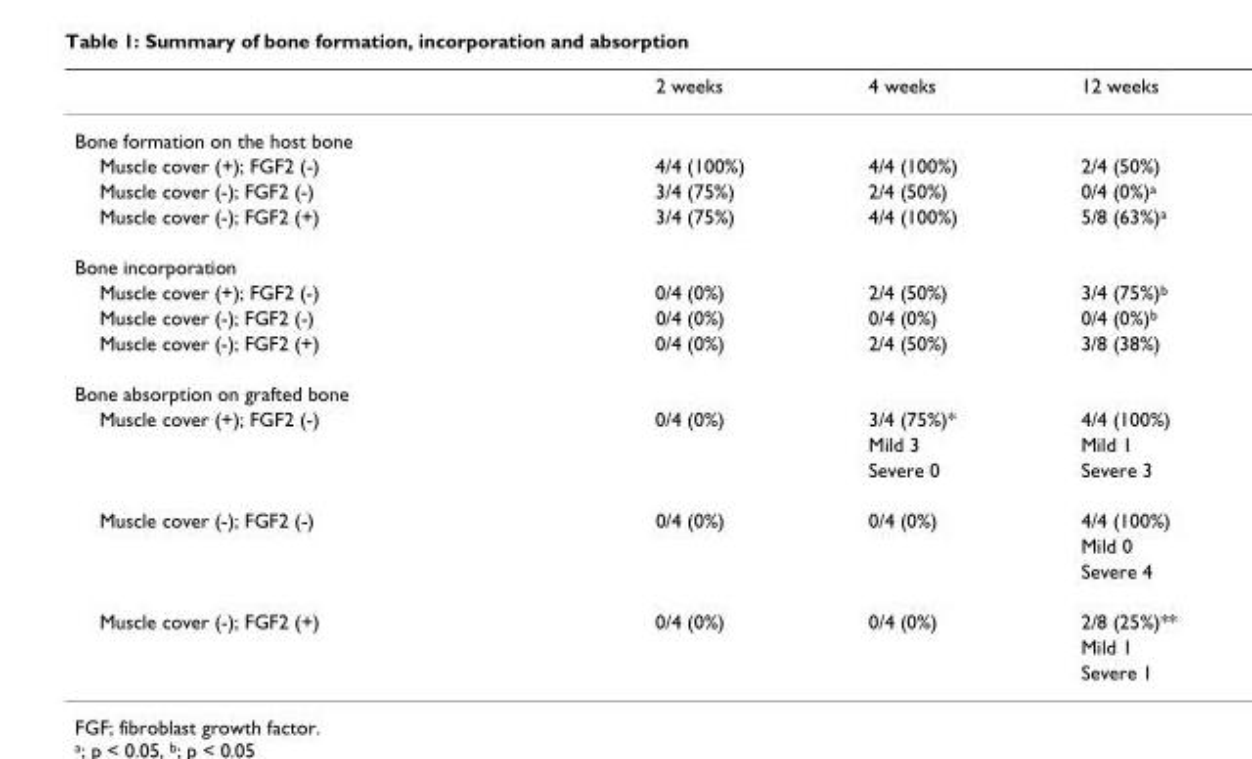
<table><thead><tr><td></td><td>2 weeks</td><td>4 weeks</td><td>12 weeks</td></tr></thead><tbody><tr><td colspan="4">Bone formation on the host bone</td></tr><tr><td>Muscle cover (+); FGF2 (-)</td><td>4/4 (100%)</td><td>4/4 (100%)</td><td>2/4 (50%)</td></tr><tr><td>Muscle cover (-); FGF2 (-)</td><td>3/4 (75%)</td><td>2/4 (50%)</td><td>0/4 (0%)<sup>a</sup></td></tr><tr><td>Muscle cover (-); FGF2 (+)</td><td>3/4 (75%)</td><td>4/4 (100%)</td><td>5/8 (63%)<sup>a</sup></td></tr><tr><td colspan="4">Bone incorporation</td></tr><tr><td>Muscle cover (+); FGF2 (-)</td><td>0/4 (0%)</td><td>2/4 (50%)</td><td>3/4 (75%)<sup>b</sup></td></tr><tr><td>Muscle cover (-); FGF2 (-)</td><td>0/4 (0%)</td><td>0/4 (0%)</td><td>0/4 (0%)<sup>b</sup></td></tr><tr><td>Muscle cover (-); FGF2 (+)</td><td>0/4 (0%)</td><td>2/4 (50%)</td><td>3/8 (38%)</td></tr><tr><td colspan="4">Bone absorption on grafted bone</td></tr><tr><td rowspan="3">Muscle cover (+); FGF2 (-)</td><td>0/4 (0%)</td><td>3/4 (75%)*</td><td>4/4 (100%)</td></tr><tr><td></td><td>Mild 3</td><td>Mild 1</td></tr><tr><td></td><td>Severe 0</td><td>Severe 3</td></tr><tr><td rowspan="3">Muscle cover (-); FGF2 (-)</td><td>0/4 (0%)</td><td>0/4 (0%)</td><td>4/4 (100%)</td></tr><tr><td></td><td></td><td>Mild 0</td></tr><tr><td></td><td></td><td>Severe 4</td></tr><tr><td rowspan="3">Muscle cover (-); FGF2 (+)</td><td>0/4 (0%)</td><td>0/4 (0%)</td><td>2/8 (25%)**</td></tr><tr><td></td><td></td><td>Mild 1</td></tr><tr><td></td><td></td><td>Severe 1</td></tr></tbody></table>